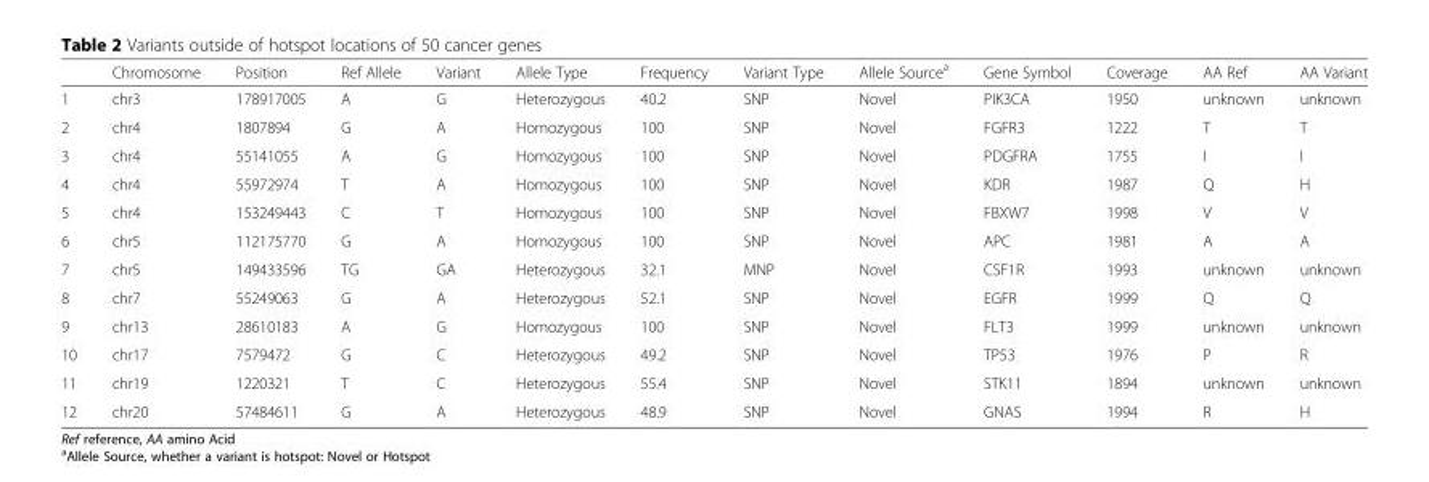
<table><thead><tr><td></td><td>Chromosome</td><td>Position</td><td>Ref Allele</td><td>Variant</td><td>Allele Type</td><td>Frequency</td><td>Variant Type</td><td>Allele Source<sup>a</sup></td><td>Gene Symbol</td><td>Coverage</td><td>AA Ref</td><td>AA Variant</td></tr></thead><tbody><tr><td>1</td><td>chr3</td><td>178917005</td><td>A</td><td>G</td><td>Heterozygous</td><td>40.2</td><td>SNP</td><td>Novel</td><td>PIK3CA</td><td>1950</td><td>unknown</td><td>unknown</td></tr><tr><td>2</td><td>chr4</td><td>1807894</td><td>G</td><td>A</td><td>Homozygous</td><td>100</td><td>SNP</td><td>Novel</td><td>FGFR3</td><td>1222</td><td>T</td><td>T</td></tr><tr><td>3</td><td>chr4</td><td>55141055</td><td>A</td><td>G</td><td>Homozygous</td><td>100</td><td>SNP</td><td>Novel</td><td>PDGFRA</td><td>1755</td><td>I</td><td>I</td></tr><tr><td>4</td><td>chr4</td><td>55972974</td><td>T</td><td>A</td><td>Homozygous</td><td>100</td><td>SNP</td><td>Novel</td><td>KDR</td><td>1987</td><td>Q</td><td>H</td></tr><tr><td>5</td><td>chr4</td><td>153249443</td><td>C</td><td>T</td><td>Homozygous</td><td>100</td><td>SNP</td><td>Novel</td><td>FBXW7</td><td>1998</td><td>V</td><td>V</td></tr><tr><td>6</td><td>chr5</td><td>112175770</td><td>G</td><td>A</td><td>Homozygous</td><td>100</td><td>SNP</td><td>Novel</td><td>APC</td><td>1981</td><td>A</td><td>A</td></tr><tr><td>7</td><td>chr5</td><td>149433596</td><td>TG</td><td>GA</td><td>Heterozygous</td><td>32.1</td><td>MNP</td><td>Novel</td><td>CSF1R</td><td>1993</td><td>unknown</td><td>unknown</td></tr><tr><td>8</td><td>chr7</td><td>55249063</td><td>G</td><td>A</td><td>Heterozygous</td><td>52.1</td><td>SNP</td><td>Novel</td><td>EGFR</td><td>1999</td><td>Q</td><td>Q</td></tr><tr><td>9</td><td>chr13</td><td>28610183</td><td>A</td><td>G</td><td>Homozygous</td><td>100</td><td>SNP</td><td>Novel</td><td>FLT3</td><td>1999</td><td>unknown</td><td>unknown</td></tr><tr><td>10</td><td>chr17</td><td>7579472</td><td>G</td><td>C</td><td>Heterozygous</td><td>49.2</td><td>SNP</td><td>Novel</td><td>TP53</td><td>1976</td><td>P</td><td>R</td></tr><tr><td>11</td><td>chr19</td><td>1220321</td><td>T</td><td>C</td><td>Heterozygous</td><td>55.4</td><td>SNP</td><td>Novel</td><td>STK11</td><td>1894</td><td>unknown</td><td>unknown</td></tr><tr><td>12</td><td>chr20</td><td>57484611</td><td>G</td><td>A</td><td>Heterozygous</td><td>48.9</td><td>SNP</td><td>Novel</td><td>GNAS</td><td>1994</td><td>R</td><td>H</td></tr></tbody></table>